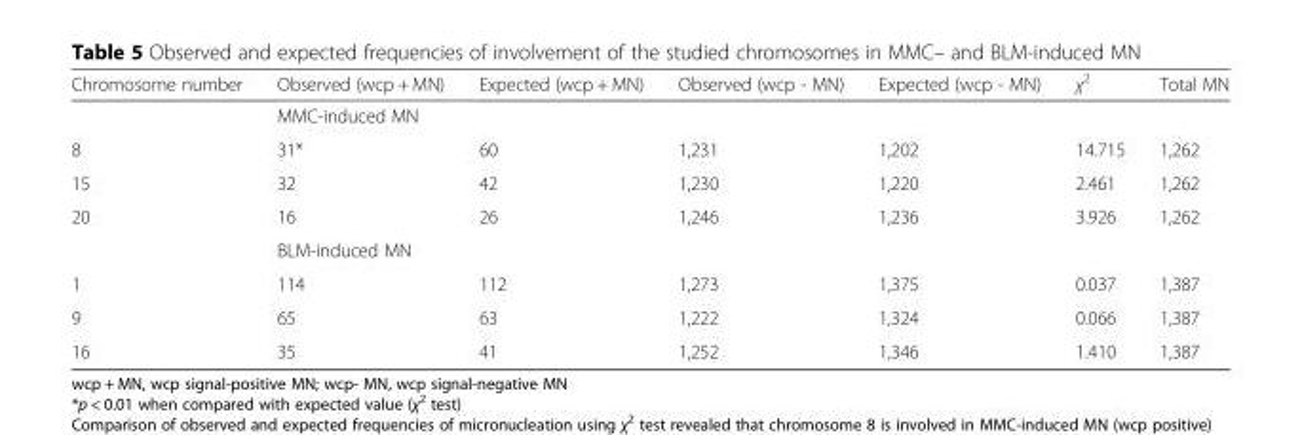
<table><thead><tr><td>Chromosome number</td><td>Observed (wcp + MN)</td><td>Expected (wcp + MN)</td><td>Observed (wcp - MN)</td><td>Expected (wcp - MN)</td><td>χ<sup>2</sup></td><td>Total MN</td></tr></thead><tbody><tr><td></td><td colspan="6">MMC-induced MN</td></tr><tr><td>8</td><td>31*</td><td>60</td><td>1,231</td><td>1,202</td><td>14.715</td><td>1,262</td></tr><tr><td>15</td><td>32</td><td>42</td><td>1,230</td><td>1,220</td><td>2.461</td><td>1,262</td></tr><tr><td rowspan="2">20</td><td>16</td><td>26</td><td>1,246</td><td>1,236</td><td>3.926</td><td>1,262</td></tr><tr><td colspan="6">BLM-induced MN</td></tr><tr><td>1</td><td>114</td><td>112</td><td>1,273</td><td>1,375</td><td>0.037</td><td>1,387</td></tr><tr><td>9</td><td>65</td><td>63</td><td>1,222</td><td>1,324</td><td>0.066</td><td>1,387</td></tr><tr><td>16</td><td>35</td><td>41</td><td>1,252</td><td>1,346</td><td>1.410</td><td>1,387</td></tr></tbody></table>